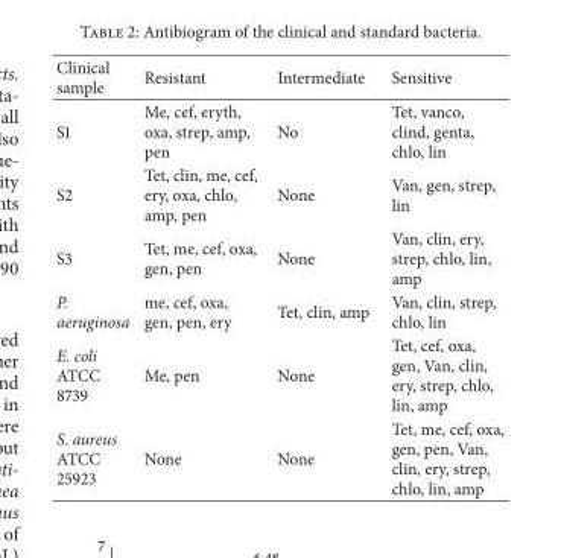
<table><thead><tr><td>Clinical sample</td><td>Resistant</td><td>Intermediate</td><td>Sensitive</td></tr></thead><tbody><tr><td>S1</td><td>Me, cef, eryth, oxa, strep, amp, pen</td><td>No</td><td>Tet, vanco, clind, genta, chlo, lin</td></tr><tr><td>S2</td><td>Tet, clin, me, cef, ery, oxa, chlo, amp, pen</td><td>None</td><td>Van, gen, strep, lin</td></tr><tr><td>S3</td><td>Tet, me, cef, oxa, gen, pen</td><td>None</td><td>Van, clin, ery, strep, chlo, lin, amp</td></tr><tr><td>P. aeruginosa</td><td>me, cef, oxa, gen, pen, ery</td><td>Tet, clin, amp</td><td>Van, clin, strep, chlo, lin</td></tr><tr><td>E. coli ATCC 8739</td><td>Me, pen</td><td>None</td><td>Tet, cef, oxa, gen, Van, clin, ery, strep, chlo, lin, amp</td></tr><tr><td>S. aureus ATCC 25923</td><td>None</td><td>None</td><td>Tet, me, cef, oxa, gen, pen, Van, clin, ery, strep, chlo, lin, amp</td></tr></tbody></table>